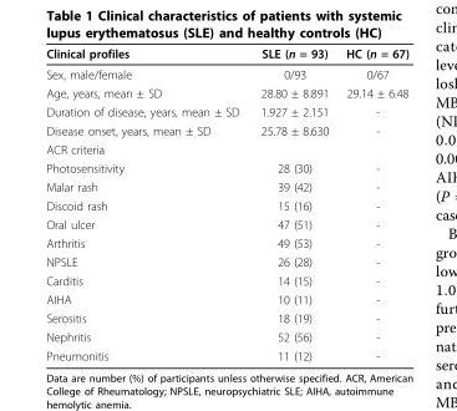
<table><thead><tr><td>Clinical profiles</td><td>SLE (n = 93)</td><td>HC (n = 67)</td></tr></thead><tbody><tr><td>Sex, male/female</td><td>0/93</td><td>0/67</td></tr><tr><td>Age, years, mean ± SD</td><td>28.80 ± 8.891</td><td>29.14 ± 6.48</td></tr><tr><td>Duration of disease, years, mean ± SD</td><td>1.927 ± 2.151</td><td>-</td></tr><tr><td>Disease onset, years, mean ± SD</td><td>25.78 ± 8.630</td><td>-</td></tr><tr><td colspan="3">ACR criteria</td></tr><tr><td>Photosensitivity</td><td>28 (30)</td><td>-</td></tr><tr><td>Malar rash</td><td>39 (42)</td><td>-</td></tr><tr><td>Discoid rash</td><td>15 (16)</td><td>-</td></tr><tr><td>Oral ulcer</td><td>47 (51)</td><td>-</td></tr><tr><td>Arthritis</td><td>49 (53)</td><td>-</td></tr><tr><td>NPSLE</td><td>26 (28)</td><td>-</td></tr><tr><td>Carditis</td><td>14 (15)</td><td>-</td></tr><tr><td>AIHA</td><td>10 (11)</td><td>-</td></tr><tr><td>Serositis</td><td>18 (19)</td><td>-</td></tr><tr><td>Nephritis</td><td>52 (56)</td><td>-</td></tr><tr><td>Pneumonitis</td><td>11 (12)</td><td>-</td></tr></tbody></table>